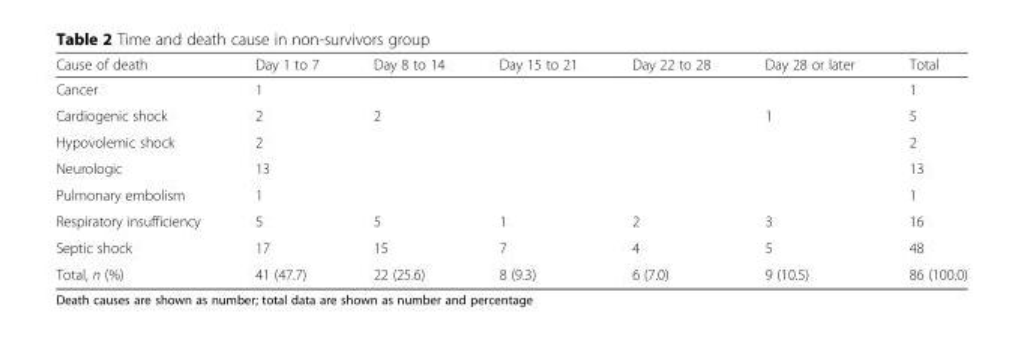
<table><thead><tr><td>Cause of death</td><td>Day 1 to 7</td><td>Day 8 to 14</td><td>Day 15 to 21</td><td>Day 22 to 28</td><td>Day 28 or later</td><td>Total</td></tr></thead><tbody><tr><td>Cancer</td><td>1</td><td></td><td></td><td></td><td></td><td>1</td></tr><tr><td>Cardiogenic shock</td><td>2</td><td>2</td><td></td><td></td><td>1</td><td>5</td></tr><tr><td>Hypovolemic shock</td><td>2</td><td></td><td></td><td></td><td></td><td>2</td></tr><tr><td>Neurologic</td><td>13</td><td></td><td></td><td></td><td></td><td>13</td></tr><tr><td>Pulmonary embolism</td><td>1</td><td></td><td></td><td></td><td></td><td>1</td></tr><tr><td>Respiratory insufficiency</td><td>5</td><td>5</td><td>1</td><td>2</td><td>3</td><td>16</td></tr><tr><td>Septic shock</td><td>17</td><td>15</td><td>7</td><td>4</td><td>5</td><td>48</td></tr><tr><td>Total, n (%)</td><td>41 (47.7)</td><td>22 (25.6)</td><td>8 (9.3)</td><td>6 (7.0)</td><td>9 (10.5)</td><td>86 (100.0)</td></tr></tbody></table>